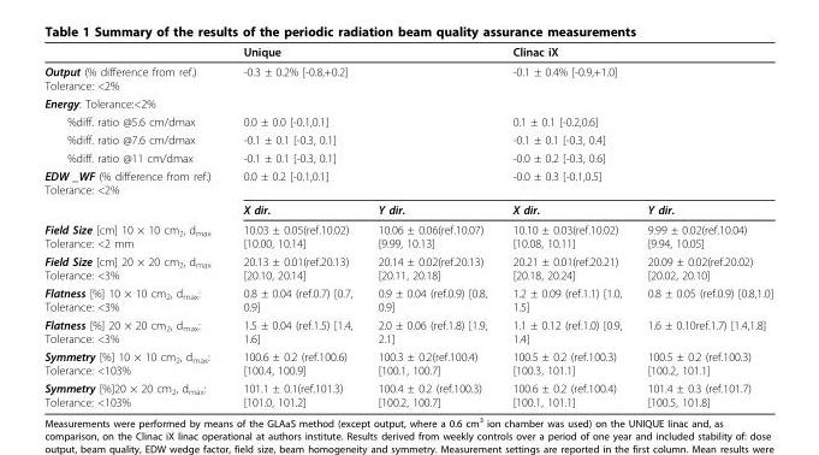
<table><thead><tr><td rowspan="2">Output (% difference from ref.) Tolerance: &lt;2%</td><td colspan="2">Unique</td><td colspan="2">Clinac iX</td></tr><tr><td>-0.3 ± 0.2% [-0.8,+0.2]</td><td></td><td>-0.1 ± 0.4% [-0.9,+1.0]</td><td></td></tr></thead><tbody><tr><td colspan="5">Energy: Tolerance:&lt;2%</td></tr><tr><td>%diff. ratio @5.6 cm/dmax</td><td>0.0 ± 0.0 [-0.1,0.1]</td><td></td><td>0.1 ± 0.1 [-0.2,0.6]</td><td></td></tr><tr><td>%diff. ratio @7.6 cm/dmax</td><td>-0.1 ± 0.1 [-0.3, 0.1]</td><td></td><td>-0.1 ± 0.1 [-0.3, 0.4]</td><td></td></tr><tr><td>%diff. ratio @11 cm/dmax</td><td>-0.1 ± 0.1 [-0.3, 0.1]</td><td></td><td>-0.0 ± 0.2 [-0.3, 0.6]</td><td></td></tr><tr><td rowspan="2">EDW _WF (% difference from ref.) Tolerance: &lt;2%</td><td>0.0 ± 0.2 [-0.1,0.1]</td><td></td><td>-0.0 ± 0.3 [-0.1,0.5]</td><td></td></tr><tr><td>X dir.</td><td>Y dir.</td><td>X dir.</td><td>Y dir.</td></tr><tr><td>Field Size [cm] 10 × 10 cm<sub>2</sub>, d<sub>max</sub> Tolerance: &lt;2 mm</td><td>10.03 ± 0.05(ref.10.02) [10.00, 10.14]</td><td>10.06 ± 0.06(ref.10.07) [9.99, 10.13]</td><td>10.10 ± 0.03(ref.10.02) [10.08, 10.11]</td><td>9.99 ± 0.02(ref.10.04) [9.94, 10.05]</td></tr><tr><td>Field Size [cm] 20 × 20 cm<sub>2</sub>, d<sub>max</sub> Tolerance: &lt;3%</td><td>20.13 ± 0.01(ref.20.13) [20.10, 20.14]</td><td>20.14 ± 0.02(ref.20.13) [20.11, 20.18]</td><td>20.21 ± 0.01(ref.20.21) [20.18, 20.24]</td><td>20.09 ± 0.02(ref.20.02) [20.02, 20.10]</td></tr><tr><td>Flatness [%] 10 × 10 cm<sub>2</sub>, d<sub>max</sub>: Tolerance: &lt;3%</td><td>0.8 ± 0.04 (ref.0.7) [0.7, 0.9]</td><td>0.9 ± 0.04 (ref.0.9) [0.8, 0.9]</td><td>1.2 ± 0.09 (ref.1.1) [1.0, 1.5]</td><td>0.8 ± 0.05 (ref.0.9) [0.8,1.0]</td></tr><tr><td>Flatness [%] 20 × 20 cm<sub>2</sub>, d<sub>max</sub>: Tolerance: &lt;3%</td><td>1.5 ± 0.04 (ref.1.5) [1.4, 1.6]</td><td>2.0 ± 0.06 (ref.1.8) [1.9, 2.1]</td><td>1.1 ± 0.12 (ref.1.0) [0.9, 1.4]</td><td>1.6 ± 0.10ref.1.7) [1.4,1.8]</td></tr><tr><td>Symmetry [%] 10 × 10 cm<sub>2</sub>, d<sub>max</sub>: Tolerance: &lt;103%</td><td>100.6 ± 0.2 (ref.100.6) [100.4, 100.9]</td><td>100.3 ± 0.2(ref.100.4) [100.1, 100.7]</td><td>100.5 ± 0.2 (ref.100.3) [100.3, 101.1]</td><td>100.5 ± 0.2 (ref.100.3) [100.2, 101.1]</td></tr><tr><td>Symmetry [%]20 × 20 cm<sub>2</sub>, d<sub>max</sub>: Tolerance: &lt;103%</td><td>101.1 ± 0.1(ref.101.3) [101.0, 101.2]</td><td>100.4 ± 0.2 (ref.100.3) [100.2, 100.7]</td><td>100.6 ± 0.2 (ref.100.4) [100.1, 101.1]</td><td>101.4 ± 0.3 (ref.101.7) [100.5, 101.8]</td></tr></tbody></table>